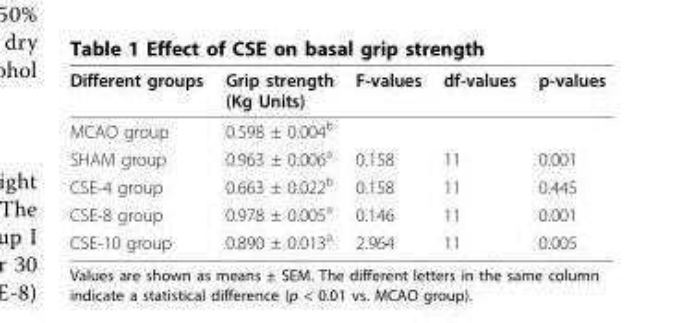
<table><thead><tr><td>Different groups</td><td>Grip strength (Kg Units)</td><td>F-values</td><td>df-values</td><td>p-values</td></tr></thead><tbody><tr><td>MCAO group</td><td>0.598 ± 0.004<sup>b</sup></td><td></td><td></td><td></td></tr><tr><td>SHAM group</td><td>0.963 ± 0.006<sup>a</sup></td><td>0.158</td><td>11</td><td>0.001</td></tr><tr><td>CSE-4 group</td><td>0.663 ± 0.022<sup>b</sup></td><td>0.158</td><td>11</td><td>0.445</td></tr><tr><td>CSE-8 group</td><td>0.978 ± 0.005<sup>a</sup></td><td>0.146</td><td>11</td><td>0.001</td></tr><tr><td>CSE-10 group</td><td>0.890 ± 0.013<sup>a</sup></td><td>2.964</td><td>11</td><td>0.005</td></tr></tbody></table>